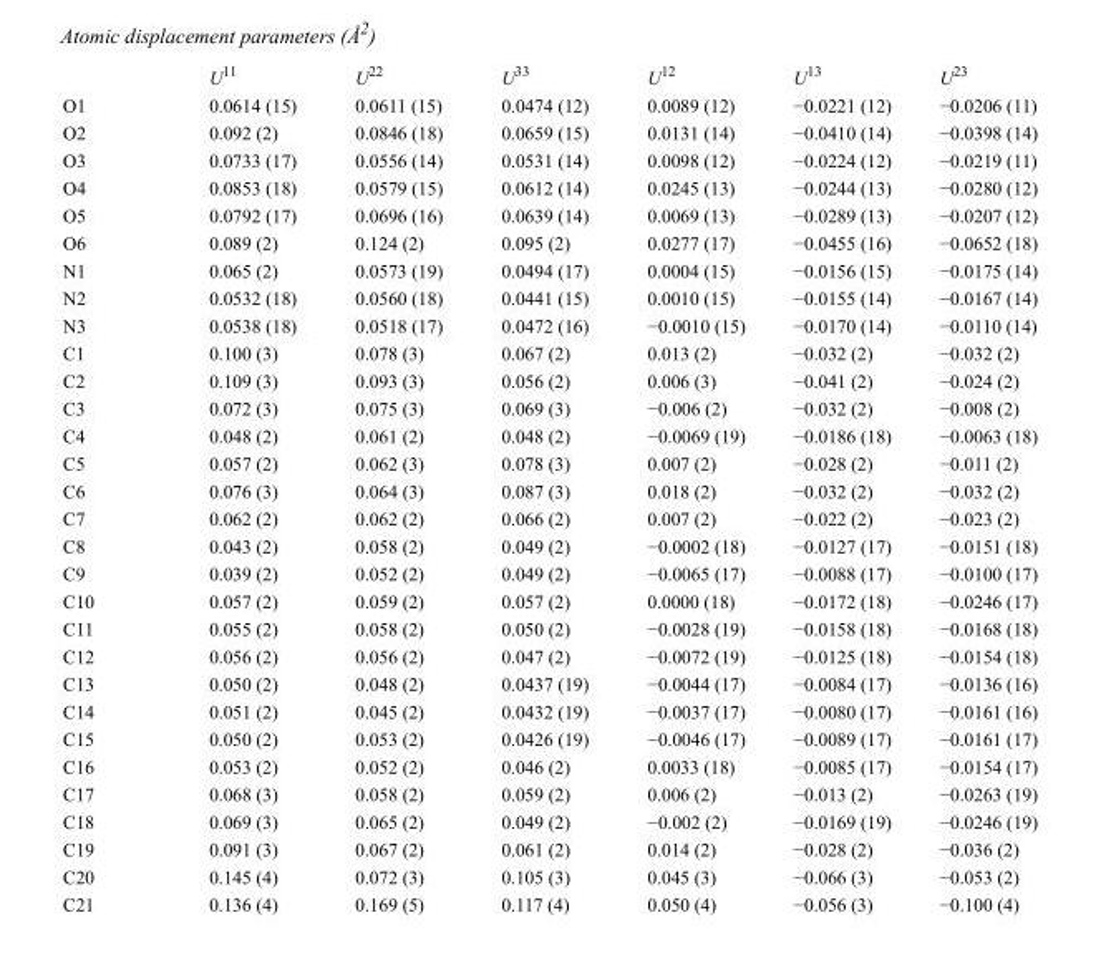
<table><thead><tr><td></td><td>U<sup>11</sup></td><td>U<sup>22</sup></td><td>U<sup>33</sup></td><td>U<sup>12</sup></td><td>U<sup>13</sup></td><td>U<sup>23</sup></td></tr></thead><tbody><tr><td>O1</td><td>0.0614 (15)</td><td>0.0611 (15)</td><td>0.0474 (12)</td><td>0.0089 (12)</td><td>−0.0221 (12)</td><td>−0.0206 (11)</td></tr><tr><td>O2</td><td>0.092 (2)</td><td>0.0846 (18)</td><td>0.0659 (15)</td><td>0.0131 (14)</td><td>−0.0410 (14)</td><td>−0.0398 (14)</td></tr><tr><td>O3</td><td>0.0733 (17)</td><td>0.0556 (14)</td><td>0.0531 (14)</td><td>0.0098 (12)</td><td>−0.0224 (12)</td><td>−0.0219 (11)</td></tr><tr><td>O4</td><td>0.0853 (18)</td><td>0.0579 (15)</td><td>0.0612 (14)</td><td>0.0245 (13)</td><td>−0.0244 (13)</td><td>−0.0280 (12)</td></tr><tr><td>O5</td><td>0.0792 (17)</td><td>0.0696 (16)</td><td>0.0639 (14)</td><td>0.0069 (13)</td><td>−0.0289 (13)</td><td>−0.0207 (12)</td></tr><tr><td>O6</td><td>0.089 (2)</td><td>0.124 (2)</td><td>0.095 (2)</td><td>0.0277 (17)</td><td>−0.0455 (16)</td><td>−0.0652 (18)</td></tr><tr><td>N1</td><td>0.065 (2)</td><td>0.0573 (19)</td><td>0.0494 (17)</td><td>0.0004 (15)</td><td>−0.0156 (15)</td><td>−0.0175 (14)</td></tr><tr><td>N2</td><td>0.0532 (18)</td><td>0.0560 (18)</td><td>0.0441 (15)</td><td>0.0010 (15)</td><td>−0.0155 (14)</td><td>−0.0167 (14)</td></tr><tr><td>N3</td><td>0.0538 (18)</td><td>0.0518 (17)</td><td>0.0472 (16)</td><td>−0.0010 (15)</td><td>−0.0170 (14)</td><td>−0.0110 (14)</td></tr><tr><td>C1</td><td>0.100 (3)</td><td>0.078 (3)</td><td>0.067 (2)</td><td>0.013 (2)</td><td>−0.032 (2)</td><td>−0.032 (2)</td></tr><tr><td>C2</td><td>0.109 (3)</td><td>0.093 (3)</td><td>0.056 (2)</td><td>0.006 (3)</td><td>−0.041 (2)</td><td>−0.024 (2)</td></tr><tr><td>C3</td><td>0.072 (3)</td><td>0.075 (3)</td><td>0.069 (3)</td><td>−0.006 (2)</td><td>−0.032 (2)</td><td>−0.008 (2)</td></tr><tr><td>C4</td><td>0.048 (2)</td><td>0.061 (2)</td><td>0.048 (2)</td><td>−0.0069 (19)</td><td>−0.0186 (18)</td><td>−0.0063 (18)</td></tr><tr><td>C5</td><td>0.057 (2)</td><td>0.062 (3)</td><td>0.078 (3)</td><td>0.007 (2)</td><td>−0.028 (2)</td><td>−0.011 (2)</td></tr><tr><td>C6</td><td>0.076 (3)</td><td>0.064 (3)</td><td>0.087 (3)</td><td>0.018 (2)</td><td>−0.032 (2)</td><td>−0.032 (2)</td></tr><tr><td>C7</td><td>0.062 (2)</td><td>0.062 (2)</td><td>0.066 (2)</td><td>0.007 (2)</td><td>−0.022 (2)</td><td>−0.023 (2)</td></tr><tr><td>C8</td><td>0.043 (2)</td><td>0.058 (2)</td><td>0.049 (2)</td><td>−0.0002 (18)</td><td>−0.0127 (17)</td><td>−0.0151 (18)</td></tr><tr><td>C9</td><td>0.039 (2)</td><td>0.052 (2)</td><td>0.049 (2)</td><td>−0.0065 (17)</td><td>−0.0088 (17)</td><td>−0.0100 (17)</td></tr><tr><td>C10</td><td>0.057 (2)</td><td>0.059 (2)</td><td>0.057 (2)</td><td>0.0000 (18)</td><td>−0.0172 (18)</td><td>−0.0246 (17)</td></tr><tr><td>C11</td><td>0.055 (2)</td><td>0.058 (2)</td><td>0.050 (2)</td><td>−0.0028 (19)</td><td>−0.0158 (18)</td><td>−0.0168 (18)</td></tr><tr><td>C12</td><td>0.056 (2)</td><td>0.056 (2)</td><td>0.047 (2)</td><td>−0.0072 (19)</td><td>−0.0125 (18)</td><td>−0.0154 (18)</td></tr><tr><td>C13</td><td>0.050 (2)</td><td>0.048 (2)</td><td>0.0437 (19)</td><td>−0.0044 (17)</td><td>−0.0084 (17)</td><td>−0.0136 (16)</td></tr><tr><td>C14</td><td>0.051 (2)</td><td>0.045 (2)</td><td>0.0432 (19)</td><td>−0.0037 (17)</td><td>−0.0080 (17)</td><td>−0.0161 (16)</td></tr><tr><td>C15</td><td>0.050 (2)</td><td>0.053 (2)</td><td>0.0426 (19)</td><td>−0.0046 (17)</td><td>−0.0089 (17)</td><td>−0.0161 (17)</td></tr><tr><td>C16</td><td>0.053 (2)</td><td>0.052 (2)</td><td>0.046 (2)</td><td>0.0033 (18)</td><td>−0.0085 (17)</td><td>−0.0154 (17)</td></tr><tr><td>C17</td><td>0.068 (3)</td><td>0.058 (2)</td><td>0.059 (2)</td><td>0.006 (2)</td><td>−0.013 (2)</td><td>−0.0263 (19)</td></tr><tr><td>C18</td><td>0.069 (3)</td><td>0.065 (2)</td><td>0.049 (2)</td><td>−0.002 (2)</td><td>−0.0169 (19)</td><td>−0.0246 (19)</td></tr><tr><td>C19</td><td>0.091 (3)</td><td>0.067 (2)</td><td>0.061 (2)</td><td>0.014 (2)</td><td>−0.028 (2)</td><td>−0.036 (2)</td></tr><tr><td>C20</td><td>0.145 (4)</td><td>0.072 (3)</td><td>0.105 (3)</td><td>0.045 (3)</td><td>−0.066 (3)</td><td>−0.053 (2)</td></tr><tr><td>C21</td><td>0.136 (4)</td><td>0.169 (5)</td><td>0.117 (4)</td><td>0.050 (4)</td><td>−0.056 (3)</td><td>−0.100 (4)</td></tr></tbody></table>